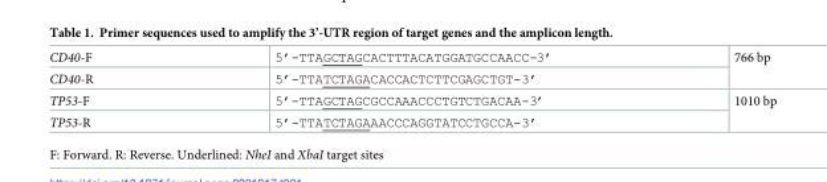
<table><tbody><tr><td>CD40-F</td><td>5’-TTAGCTAGCACTTTACATGGATGCCAACC-3’</td><td rowspan="2">766 bp</td></tr><tr><td>CD40-R</td><td>5’-TTATCTAGACACCACTCTTCGAGCTGT-3’</td></tr><tr><td>TP53-F</td><td>5’-TTAGCTAGCGCCAAACCCTGTCTGACAA-3’</td><td rowspan="2">1010 bp</td></tr><tr><td>TP53-R</td><td>5’-TTATCTAGAAACCCAGGTATCCTGCCA-3’</td></tr></tbody></table>